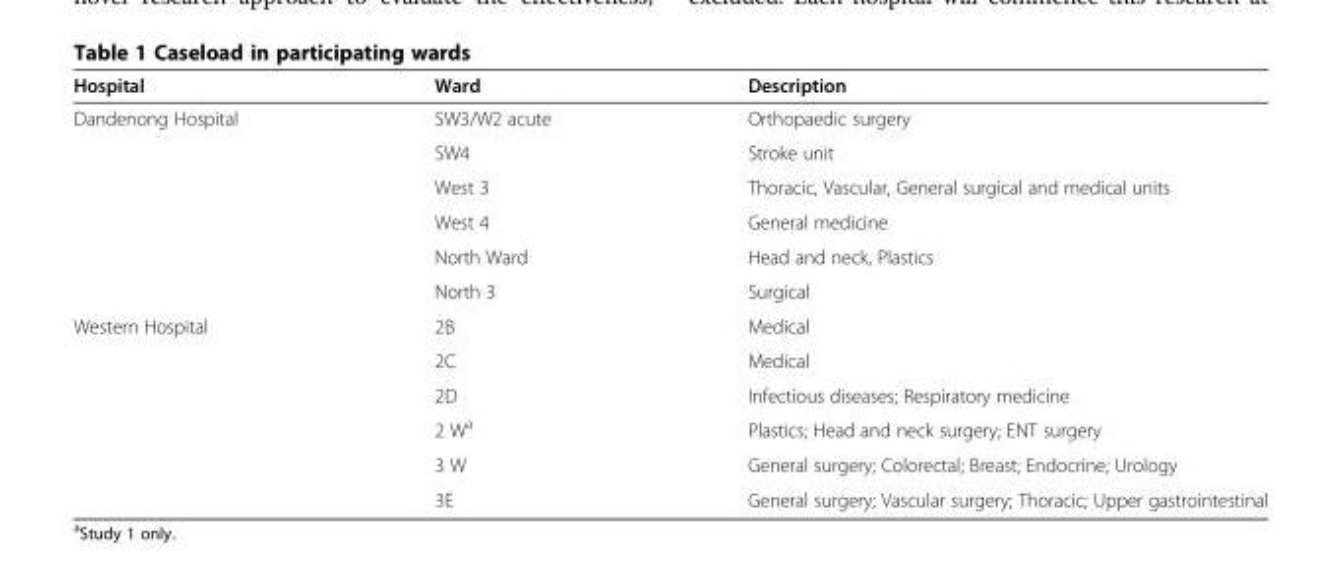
<table><thead><tr><td>Hospital</td><td>Ward</td><td>Description</td></tr></thead><tbody><tr><td rowspan="6">Dandenong Hospital</td><td>SW3/W2 acute</td><td>Orthopaedic surgery</td></tr><tr><td>SW4</td><td>Stroke unit</td></tr><tr><td>West 3</td><td>Thoracic, Vascular, General surgical and medical units</td></tr><tr><td>West 4</td><td>General medicine</td></tr><tr><td>North Ward</td><td>Head and neck, Plastics</td></tr><tr><td>North 3</td><td>Surgical</td></tr><tr><td rowspan="6">Western Hospital</td><td>2B</td><td>Medical</td></tr><tr><td>2C</td><td>Medical</td></tr><tr><td>2D</td><td>Infectious diseases; Respiratory medicine</td></tr><tr><td>2 W<sup>a</sup></td><td>Plastics; Head and neck surgery; ENT surgery</td></tr><tr><td>3 W</td><td>General surgery; Colorectal; Breast; Endocrine; Urology</td></tr><tr><td>3E</td><td>General surgery; Vascular surgery; Thoracic; Upper gastrointestinal</td></tr></tbody></table>